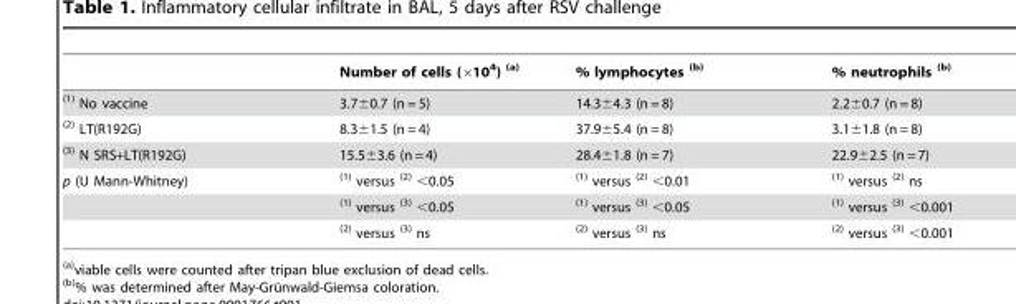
<table><thead><tr><td></td><td>Number of cells (×10<sup>4</sup>) (a)</td><td>% lymphocytes (b)</td><td>% neutrophils (b)</td></tr></thead><tbody><tr><td><sup>(1)</sup> No vaccine</td><td>3.7±0.7 (n = 5)</td><td>14.3±4.3 (n = 8)</td><td>2.2±0.7 (n = 8)</td></tr><tr><td><sup>(2)</sup> LT(R192G)</td><td>8.3±1.5 (n = 4)</td><td>37.9±5.4 (n = 8)</td><td>3.1±1.8 (n = 8)</td></tr><tr><td><sup>(3)</sup> N SRS+LT(R192G)</td><td>15.5±3.6 (n = 4)</td><td>28.4±1.8 (n = 7)</td><td>22.9±2.5 (n = 7)</td></tr><tr><td rowspan="3">p (U Mann-Whitney)</td><td><sup>(1)</sup> versus <sup>(2)</sup> &lt;0.05</td><td><sup>(1)</sup> versus <sup>(2)</sup> &lt;0.01</td><td><sup>(1)</sup> versus <sup>(2)</sup> ns</td></tr><tr><td><sup>(1)</sup> versus <sup>(3)</sup> &lt;0.05</td><td><sup>(1)</sup> versus <sup>(3)</sup> &lt;0.05</td><td><sup>(1)</sup> versus <sup>(3)</sup> &lt;0.001</td></tr><tr><td><sup>(2)</sup> versus <sup>(3)</sup> ns</td><td><sup>(2)</sup> versus <sup>(3)</sup> ns</td><td><sup>(2)</sup> versus <sup>(3)</sup> &lt;0.001</td></tr></tbody></table>